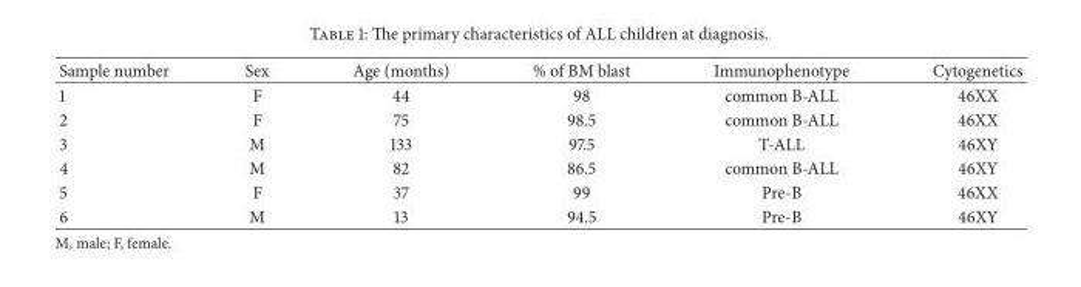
<table><thead><tr><td>Sample number</td><td>Sex</td><td>Age (months)</td><td>% of BM blast</td><td>Immunophenotype</td><td>Cytogenetics</td></tr></thead><tbody><tr><td>1</td><td>F</td><td>44</td><td>98</td><td>common B-ALL</td><td>46XX</td></tr><tr><td>2</td><td>F</td><td>75</td><td>98.5</td><td>common B-ALL</td><td>46XX</td></tr><tr><td>3</td><td>M</td><td>133</td><td>97.5</td><td>T-ALL</td><td>46XY</td></tr><tr><td>4</td><td>M</td><td>82</td><td>86.5</td><td>common B-ALL</td><td>46XY</td></tr><tr><td>5</td><td>F</td><td>37</td><td>99</td><td>Pre-B</td><td>46XX</td></tr><tr><td>6</td><td>M</td><td>13</td><td>94.5</td><td>Pre-B</td><td>46XY</td></tr></tbody></table>